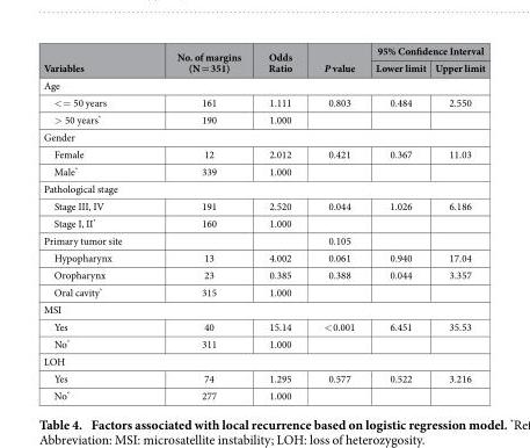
<table><thead><tr><td rowspan="2">Variables</td><td rowspan="2">No. of margins (N = 351)</td><td rowspan="2">Odds Ratio</td><td rowspan="2">P value</td><td colspan="2">95% Confidence Interval</td></tr><tr><td>Lower limit</td><td>Upper limit</td></tr></thead><tbody><tr><td colspan="6">Age</td></tr><tr><td>&lt; = 50 years</td><td>161</td><td>1.111</td><td>0.803</td><td>0.484</td><td>2.550</td></tr><tr><td>&gt; 50 years*</td><td>190</td><td>1.000</td><td></td><td></td><td></td></tr><tr><td colspan="6">Gender</td></tr><tr><td>Female</td><td>12</td><td>2.012</td><td>0.421</td><td>0.367</td><td>11.03</td></tr><tr><td>Male*</td><td>339</td><td>1.000</td><td></td><td></td><td></td></tr><tr><td colspan="6">Pathological stage</td></tr><tr><td>Stage III, IV</td><td>191</td><td>2.520</td><td>0.044</td><td>1.026</td><td>6.186</td></tr><tr><td>Stage I, II*</td><td>160</td><td>1.000</td><td></td><td></td><td></td></tr><tr><td>Primary tumor site</td><td></td><td></td><td>0.105</td><td></td><td></td></tr><tr><td>Hypopharynx</td><td>13</td><td>4.002</td><td>0.061</td><td>0.940</td><td>17.04</td></tr><tr><td>Oropharynx</td><td>23</td><td>0.385</td><td>0.388</td><td>0.044</td><td>3.357</td></tr><tr><td>Oral cavity*</td><td>315</td><td>1.000</td><td></td><td></td><td></td></tr><tr><td colspan="6">MSI</td></tr><tr><td>Yes</td><td>40</td><td>15.14</td><td>&lt; 0.001</td><td>6.451</td><td>35.53</td></tr><tr><td>No*</td><td>311</td><td>1.000</td><td></td><td></td><td></td></tr><tr><td colspan="6">LOH</td></tr><tr><td>Yes</td><td>74</td><td>1.295</td><td>0.577</td><td>0.522</td><td>3.216</td></tr><tr><td>No*</td><td>277</td><td>1.000</td><td></td><td></td><td></td></tr></tbody></table>